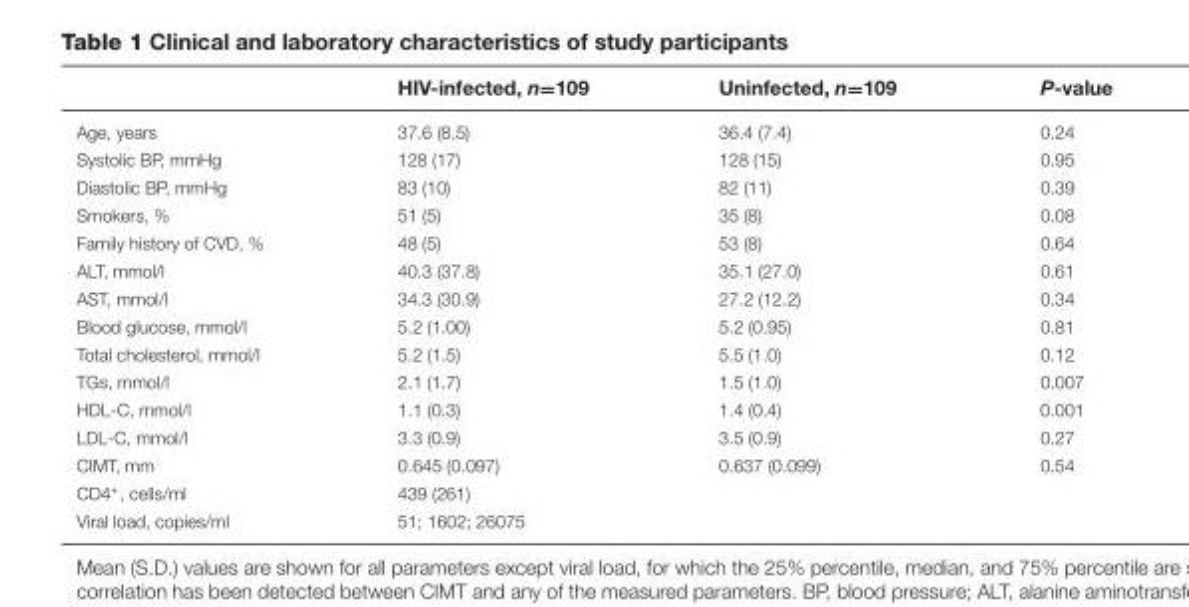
<table><thead><tr><td></td><td>HIV-infected, n=109</td><td>Uninfected, n=109</td><td>P-value</td></tr></thead><tbody><tr><td>Age, years</td><td>37.6 (8.5)</td><td>36.4 (7.4)</td><td>0.24</td></tr><tr><td>Systolic BP, mmHg</td><td>128 (17)</td><td>128 (15)</td><td>0.95</td></tr><tr><td>Diastolic BP, mmHg</td><td>83 (10)</td><td>82 (11)</td><td>0.39</td></tr><tr><td>Smokers, %</td><td>51 (5)</td><td>35 (8)</td><td>0.08</td></tr><tr><td>Family history of CVD, %</td><td>48 (5)</td><td>53 (8)</td><td>0.64</td></tr><tr><td>ALT, mmol/l</td><td>40.3 (37.8)</td><td>35.1 (27.0)</td><td>0.61</td></tr><tr><td>AST, mmol/l</td><td>34.3 (30.9)</td><td>27.2 (12.2)</td><td>0.34</td></tr><tr><td>Blood glucose, mmol/l</td><td>5.2 (1.00)</td><td>5.2 (0.95)</td><td>0.81</td></tr><tr><td>Total cholesterol, mmol/l</td><td>5.2 (1.5)</td><td>5.5 (1.0)</td><td>0.12</td></tr><tr><td>TGs, mmol/l</td><td>2.1 (1.7)</td><td>1.5 (1.0)</td><td>0.007</td></tr><tr><td>HDL-C, mmol/l</td><td>1.1 (0.3)</td><td>1.4 (0.4)</td><td>0.001</td></tr><tr><td>LDL-C, mmol/l</td><td>3.3 (0.9)</td><td>3.5 (0.9)</td><td>0.27</td></tr><tr><td>CIMT, mm</td><td>0.645 (0.097)</td><td>0.637 (0.099)</td><td>0.54</td></tr><tr><td>CD4<sup>+</sup>, cells/ml</td><td>439 (261)</td><td></td><td></td></tr><tr><td>Viral load, copies/ml</td><td>51; 1602; 26075</td><td></td><td></td></tr></tbody></table>